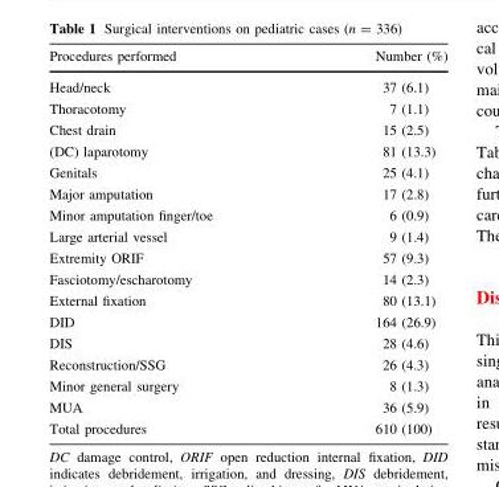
<table><thead><tr><td>Procedures performed</td><td>Number (%)</td></tr></thead><tbody><tr><td>Head/neck</td><td>37 (6.1)</td></tr><tr><td>Thoracotomy</td><td>7 (1.1)</td></tr><tr><td>Chest drain</td><td>15 (2.5)</td></tr><tr><td>(DC) laparotomy</td><td>81 (13.3)</td></tr><tr><td>Genitals</td><td>25 (4.1)</td></tr><tr><td>Major amputation</td><td>17 (2.8)</td></tr><tr><td>Minor amputation finger/toe</td><td>6 (0.9)</td></tr><tr><td>Large arterial vessel</td><td>9 (1.4)</td></tr><tr><td>Extremity ORIF</td><td>57 (9.3)</td></tr><tr><td>Fasciotomy/escharotomy</td><td>14 (2.3)</td></tr><tr><td>External fixation</td><td>80 (13.1)</td></tr><tr><td>DID</td><td>164 (26.9)</td></tr><tr><td>DIS</td><td>28 (4.6)</td></tr><tr><td>Reconstruction/SSG</td><td>26 (4.3)</td></tr><tr><td>Minor general surgery</td><td>8 (1.3)</td></tr><tr><td>MUA</td><td>36 (5.9)</td></tr><tr><td>Total procedures</td><td>610 (100)</td></tr></tbody></table>